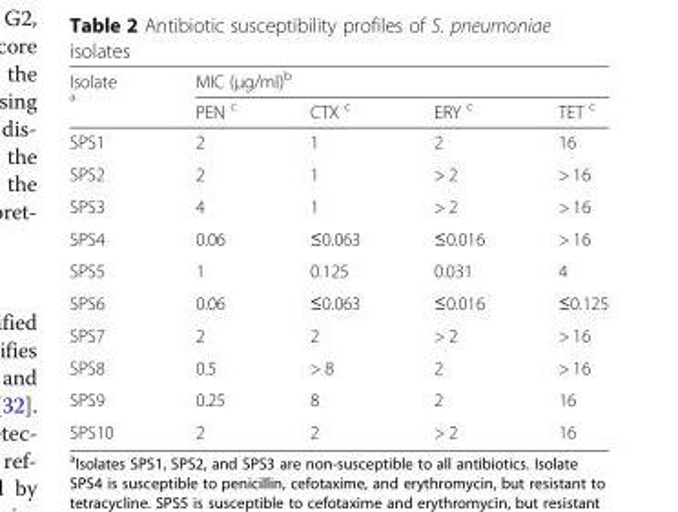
<table><thead><tr><td rowspan="2">Isolate <sup>a</sup></td><td colspan="4">MIC (μg/ml)<sup>b</sup></td></tr><tr><td>PEN <sup>c</sup></td><td>CTX <sup>c</sup></td><td>ERY <sup>c</sup></td><td>TET <sup>c</sup></td></tr></thead><tbody><tr><td>SPS1</td><td>2</td><td>1</td><td>2</td><td>16</td></tr><tr><td>SPS2</td><td>2</td><td>1</td><td>&gt; 2</td><td>&gt; 16</td></tr><tr><td>SPS3</td><td>4</td><td>1</td><td>&gt; 2</td><td>&gt; 16</td></tr><tr><td>SPS4</td><td>0.06</td><td>≤0.063</td><td>≤0.016</td><td>&gt; 16</td></tr><tr><td>SPS5</td><td>1</td><td>0.125</td><td>0.031</td><td>4</td></tr><tr><td>SPS6</td><td>0.06</td><td>≤0.063</td><td>≤0.016</td><td>≤0.125</td></tr><tr><td>SPS7</td><td>2</td><td>2</td><td>&gt; 2</td><td>&gt; 16</td></tr><tr><td>SPS8</td><td>0.5</td><td>&gt; 8</td><td>2</td><td>&gt; 16</td></tr><tr><td>SPS9</td><td>0.25</td><td>8</td><td>2</td><td>16</td></tr><tr><td>SPS10</td><td>2</td><td>2</td><td>&gt; 2</td><td>16</td></tr></tbody></table>